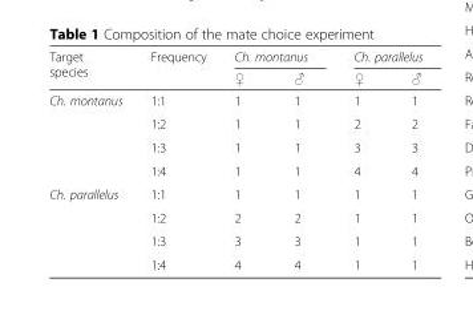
<table><thead><tr><td rowspan="2">Target species</td><td rowspan="2">Frequency</td><td colspan="2">Ch. montanus</td><td colspan="2">Ch. parallelus</td></tr><tr><td>♀</td><td>♂</td><td>♀</td><td>♂</td></tr></thead><tbody><tr><td rowspan="4">Ch. montanus</td><td>1:1</td><td>1</td><td>1</td><td>1</td><td>1</td></tr><tr><td>1:2</td><td>1</td><td>1</td><td>2</td><td>2</td></tr><tr><td>1:3</td><td>1</td><td>1</td><td>3</td><td>3</td></tr><tr><td>1:4</td><td>1</td><td>1</td><td>4</td><td>4</td></tr><tr><td rowspan="4">Ch. parallelus</td><td>1:1</td><td>1</td><td>1</td><td>1</td><td>1</td></tr><tr><td>1:2</td><td>2</td><td>2</td><td>1</td><td>1</td></tr><tr><td>1:3</td><td>3</td><td>3</td><td>1</td><td>1</td></tr><tr><td>1:4</td><td>4</td><td>4</td><td>1</td><td>1</td></tr></tbody></table>